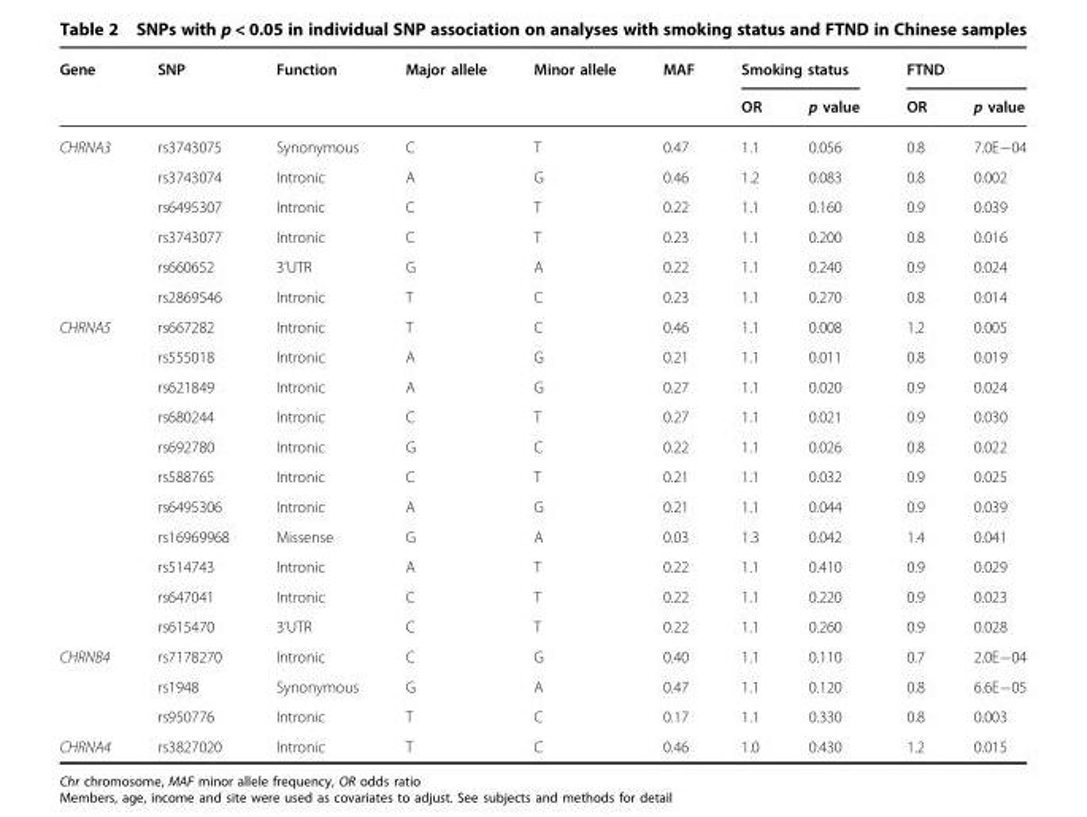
<table><thead><tr><td rowspan="2">Gene</td><td rowspan="2">SNP</td><td rowspan="2">Function</td><td rowspan="2">Major allele</td><td rowspan="2">Minor allele</td><td rowspan="2">MAF</td><td colspan="2">Smoking status</td><td colspan="2">FTND</td></tr><tr><td>OR</td><td>p value</td><td>OR</td><td>p value</td></tr></thead><tbody><tr><td rowspan="6">CHRNA3</td><td>rs3743075</td><td>Synonymous</td><td>C</td><td>T</td><td>0.47</td><td>1.1</td><td>0.056</td><td>0.8</td><td>7.0E−04</td></tr><tr><td>rs3743074</td><td>Intronic</td><td>A</td><td>G</td><td>0.46</td><td>1.2</td><td>0.083</td><td>0.8</td><td>0.002</td></tr><tr><td>rs6495307</td><td>Intronic</td><td>C</td><td>T</td><td>0.22</td><td>1.1</td><td>0.160</td><td>0.9</td><td>0.039</td></tr><tr><td>rs3743077</td><td>Intronic</td><td>C</td><td>T</td><td>0.23</td><td>1.1</td><td>0.200</td><td>0.8</td><td>0.016</td></tr><tr><td>rs660652</td><td>3’UTR</td><td>G</td><td>A</td><td>0.22</td><td>1.1</td><td>0.240</td><td>0.9</td><td>0.024</td></tr><tr><td>rs2869546</td><td>Intronic</td><td>T</td><td>C</td><td>0.23</td><td>1.1</td><td>0.270</td><td>0.8</td><td>0.014</td></tr><tr><td rowspan="11">CHRNA5</td><td>rs667282</td><td>Intronic</td><td>T</td><td>C</td><td>0.46</td><td>1.1</td><td>0.008</td><td>1.2</td><td>0.005</td></tr><tr><td>rs555018</td><td>Intronic</td><td>A</td><td>G</td><td>0.21</td><td>1.1</td><td>0.011</td><td>0.8</td><td>0.019</td></tr><tr><td>rs621849</td><td>Intronic</td><td>A</td><td>G</td><td>0.27</td><td>1.1</td><td>0.020</td><td>0.9</td><td>0.024</td></tr><tr><td>rs680244</td><td>Intronic</td><td>C</td><td>T</td><td>0.27</td><td>1.1</td><td>0.021</td><td>0.9</td><td>0.030</td></tr><tr><td>rs692780</td><td>Intronic</td><td>G</td><td>C</td><td>0.22</td><td>1.1</td><td>0.026</td><td>0.8</td><td>0.022</td></tr><tr><td>rs588765</td><td>Intronic</td><td>C</td><td>T</td><td>0.21</td><td>1.1</td><td>0.032</td><td>0.9</td><td>0.025</td></tr><tr><td>rs6495306</td><td>Intronic</td><td>A</td><td>G</td><td>0.21</td><td>1.1</td><td>0.044</td><td>0.9</td><td>0.039</td></tr><tr><td>rs16969968</td><td>Missense</td><td>G</td><td>A</td><td>0.03</td><td>1.3</td><td>0.042</td><td>1.4</td><td>0.041</td></tr><tr><td>rs514743</td><td>Intronic</td><td>A</td><td>T</td><td>0.22</td><td>1.1</td><td>0.410</td><td>0.9</td><td>0.029</td></tr><tr><td>rs647041</td><td>Intronic</td><td>C</td><td>T</td><td>0.22</td><td>1.1</td><td>0.220</td><td>0.9</td><td>0.023</td></tr><tr><td>rs615470</td><td>3’UTR</td><td>C</td><td>T</td><td>0.22</td><td>1.1</td><td>0.260</td><td>0.9</td><td>0.028</td></tr><tr><td rowspan="3">CHRNB4</td><td>rs7178270</td><td>Intronic</td><td>C</td><td>G</td><td>0.40</td><td>1.1</td><td>0.110</td><td>0.7</td><td>2.0E−04</td></tr><tr><td>rs1948</td><td>Synonymous</td><td>G</td><td>A</td><td>0.47</td><td>1.1</td><td>0.120</td><td>0.8</td><td>6.6E−05</td></tr><tr><td>rs950776</td><td>Intronic</td><td>T</td><td>C</td><td>0.17</td><td>1.1</td><td>0.330</td><td>0.8</td><td>0.003</td></tr><tr><td>CHRNA4</td><td>rs3827020</td><td>Intronic</td><td>T</td><td>C</td><td>0.46</td><td>1.0</td><td>0.430</td><td>1.2</td><td>0.015</td></tr></tbody></table>